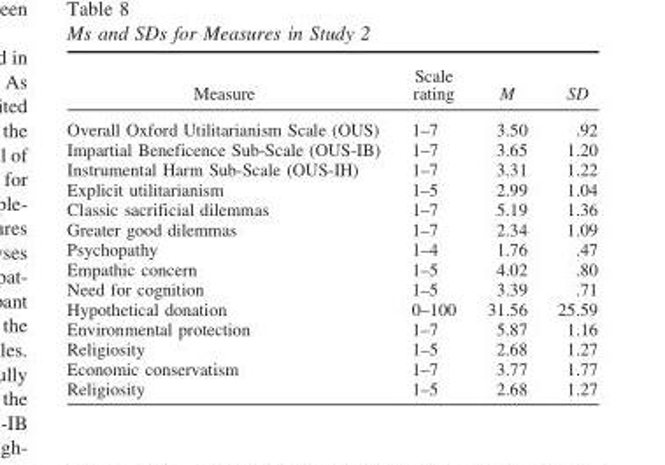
<table><thead><tr><td>Measure</td><td>Scale rating</td><td>M</td><td>SD</td></tr></thead><tbody><tr><td>Overall Oxford Utilitarianism Scale (OUS)</td><td>1–7</td><td>3.50</td><td>.92</td></tr><tr><td>Impartial Beneficence Sub-Scale (OUS-IB)</td><td>1–7</td><td>3.65</td><td>1.20</td></tr><tr><td>Instrumental Harm Sub-Scale (OUS-IH)</td><td>1–7</td><td>3.31</td><td>1.22</td></tr><tr><td>Explicit utilitarianism</td><td>1–5</td><td>2.99</td><td>1.04</td></tr><tr><td>Classic sacrificial dilemmas</td><td>1–7</td><td>5.19</td><td>1.36</td></tr><tr><td>Greater good dilemmas</td><td>1–7</td><td>2.34</td><td>1.09</td></tr><tr><td>Psychopathy</td><td>1–4</td><td>1.76</td><td>.47</td></tr><tr><td>Empathic concern</td><td>1–5</td><td>4.02</td><td>.80</td></tr><tr><td>Need for cognition</td><td>1–5</td><td>3.39</td><td>.71</td></tr><tr><td>Hypothetical donation</td><td>0–100</td><td>31.56</td><td>25.59</td></tr><tr><td>Environmental protection</td><td>1–7</td><td>5.87</td><td>1.16</td></tr><tr><td>Religiosity</td><td>1–5</td><td>2.68</td><td>1.27</td></tr><tr><td>Economic conservatism</td><td>1–7</td><td>3.77</td><td>1.77</td></tr><tr><td>Religiosity</td><td>1–5</td><td>2.68</td><td>1.27</td></tr></tbody></table>